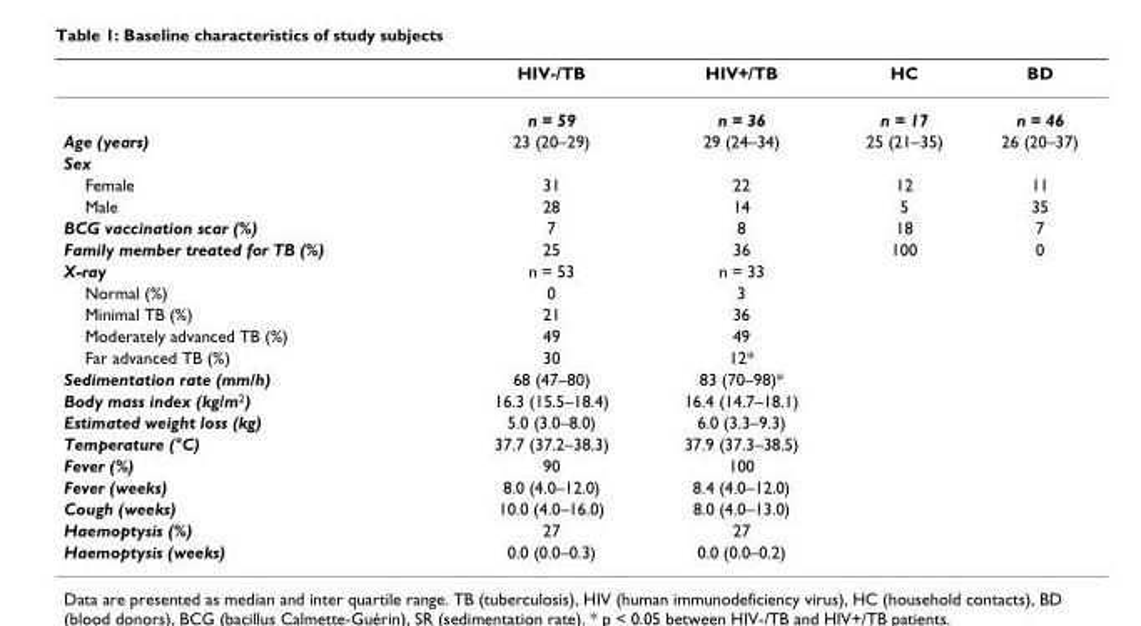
<table><thead><tr><td></td><td>HIV-/TB</td><td>HIV+/TB</td><td>HC</td><td>BD</td></tr></thead><tbody><tr><td></td><td>n = 59</td><td>n = 36</td><td>n = 17</td><td>n = 46</td></tr><tr><td>Age (years)</td><td>23 (20–29)</td><td>29 (24–34)</td><td>25 (21–35)</td><td>26 (20–37)</td></tr><tr><td colspan="5">Sex</td></tr><tr><td>Female</td><td>31</td><td>22</td><td>12</td><td>11</td></tr><tr><td>Male</td><td>28</td><td>14</td><td>5</td><td>35</td></tr><tr><td>BCG vaccination scar (%)</td><td>7</td><td>8</td><td>18</td><td>7</td></tr><tr><td>Family member treated for TB (%)</td><td>25</td><td>36</td><td>100</td><td>0</td></tr><tr><td>X-ray</td><td>n = 53</td><td>n = 33</td><td></td><td></td></tr><tr><td>Normal (%)</td><td>0</td><td>3</td><td></td><td></td></tr><tr><td>Minimal TB (%)</td><td>21</td><td>36</td><td></td><td></td></tr><tr><td>Moderately advanced TB (%)</td><td>49</td><td>49</td><td></td><td></td></tr><tr><td>Far advanced TB (%)</td><td>30</td><td>12*</td><td></td><td></td></tr><tr><td>Sedimentation rate (mm/h)</td><td>68 (47–80)</td><td>83 (70–98)*</td><td></td><td></td></tr><tr><td>Body mass index (kg/m<sup>2</sup>)</td><td>16.3 (15.5–18.4)</td><td>16.4 (14.7–18.1)</td><td></td><td></td></tr><tr><td>Estimated weight loss (kg)</td><td>5.0 (3.0–8.0)</td><td>6.0 (3.3–9.3)</td><td></td><td></td></tr><tr><td>Temperature (°C)</td><td>37.7 (37.2–38.3)</td><td>37.9 (37.3–38.5)</td><td></td><td></td></tr><tr><td>Fever (%)</td><td>90</td><td>100</td><td></td><td></td></tr><tr><td>Fever (weeks)</td><td>8.0 (4.0–12.0)</td><td>8.4 (4.0–12.0)</td><td></td><td></td></tr><tr><td>Cough (weeks)</td><td>10.0 (4.0–16.0)</td><td>8.0 (4.0–13.0)</td><td></td><td></td></tr><tr><td>Haemoptysis (%)</td><td>27</td><td>27</td><td></td><td></td></tr><tr><td>Haemoptysis (weeks)</td><td>0.0 (0.0–0.3)</td><td>0.0 (0.0–0.2)</td><td></td><td></td></tr></tbody></table>